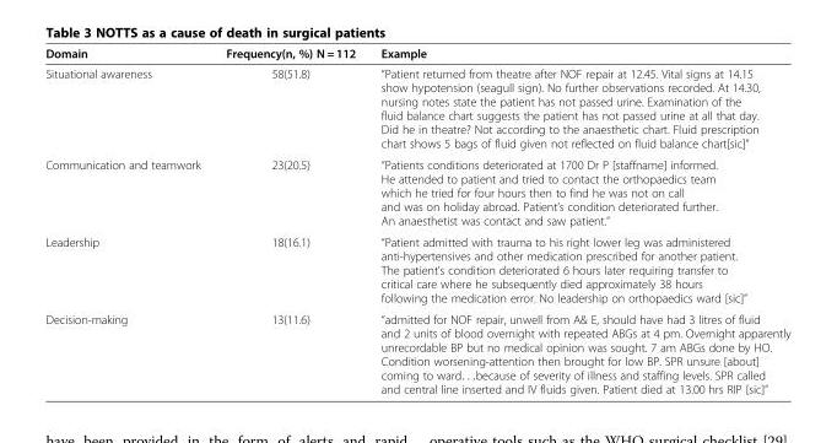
<table><thead><tr><td>Domain</td><td>Frequency(n, %) N = 112</td><td>Example</td></tr></thead><tbody><tr><td>Situational awareness</td><td>58(51.8)</td><td>“Patient returned from theatre after NOF repair at 12.45. Vital signs at 14.15 show hypotension (seagull sign). No further observations recorded. At 14.30, nursing notes state the patient has not passed urine. Examination of the fluid balance chart suggests the patient has not passed urine at all that day. Did he in theatre? Not according to the anaesthetic chart. Fluid prescription chart shows 5 bags of fluid given not reflected on fluid balance chart[sic]”</td></tr><tr><td>Communication and teamwork</td><td>23(20.5)</td><td>“Patients conditions deteriorated at 1700 Dr P [staffname] informed. He attended to patient and tried to contact the orthopaedics team which he tried for four hours then to find he was not on call and was on holiday abroad. Patient’s condition deteriorated further. An anaesthetist was contact and saw patient.”</td></tr><tr><td>Leadership</td><td>18(16.1)</td><td>“Patient admitted with trauma to his right lower leg was administered anti-hypertensives and other medication prescribed for another patient. The patient’s condition deteriorated 6 hours later requiring transfer to critical care where he subsequently died approximately 38 hours following the medication error. No leadership on orthopaedics ward [sic]”</td></tr><tr><td>Decision-making</td><td>13(11.6)</td><td>“admitted for NOF repair, unwell from A&amp; E, should have had 3 litres of fluid and 2 units of blood overnight with repeated ABGs at 4 pm. Overnight apparently unrecordable BP but no medical opinion was sought. 7 am ABGs done by HO. Condition worsening-attention then brought for low BP. SPR unsure [about] coming to ward. . .because of severity of illness and staffing levels. SPR called and central line inserted and IV fluids given. Patient died at 13.00 hrs RIP [sic]”</td></tr></tbody></table>